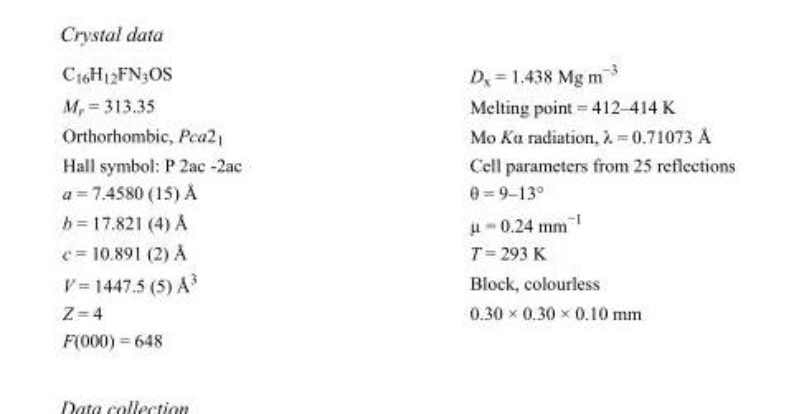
<table><tbody><tr><td>C<sub>16</sub>H<sub>12</sub>FN<sub>3</sub>OS</td><td>D<sub>x</sub> = 1.438 Mg m<sup>−3</sup></td></tr><tr><td>M<sub>r</sub> = 313.35</td><td>Melting point = 412–414 K</td></tr><tr><td>Orthorhombic, Pca2<sub>1</sub></td><td>Mo Kα radiation, λ = 0.71073 Å</td></tr><tr><td>Hall symbol: P 2ac -2ac</td><td>Cell parameters from 25 reflections</td></tr><tr><td>a = 7.4580 (15) Å</td><td>θ = 9–13°</td></tr><tr><td>b = 17.821 (4) Å</td><td>µ = 0.24 mm<sup>−1</sup></td></tr><tr><td>c = 10.891 (2) Å</td><td>T = 293 K</td></tr><tr><td>V = 1447.5 (5) Å<sup>3</sup></td><td>Block, colourless</td></tr><tr><td>Z = 4</td><td>0.30 × 0.30 × 0.10 mm</td></tr><tr><td>F(000) = 648</td><td></td></tr></tbody></table>